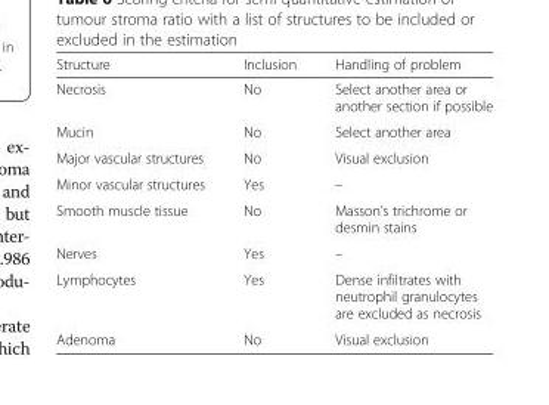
<table><thead><tr><td>Structure</td><td>Inclusion</td><td>Handling of problem</td></tr></thead><tbody><tr><td>Necrosis</td><td>No</td><td>Select another area or another section if possible</td></tr><tr><td>Mucin</td><td>No</td><td>Select another area</td></tr><tr><td>Major vascular structures</td><td>No</td><td>Visual exclusion</td></tr><tr><td>Minor vascular structures</td><td>Yes</td><td>–</td></tr><tr><td>Smooth muscle tissue</td><td>No</td><td>Masson’s trichrome or desmin stains</td></tr><tr><td>Nerves</td><td>Yes</td><td>–</td></tr><tr><td>Lymphocytes</td><td>Yes</td><td>Dense infiltrates with neutrophil granulocytes are excluded as necrosis</td></tr><tr><td>Adenoma</td><td>No</td><td>Visual exclusion</td></tr></tbody></table>